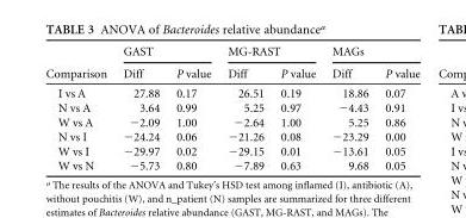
<table><thead><tr><td rowspan="2">Comparison</td><td colspan="2">GAST</td><td colspan="2">MG-RAST</td><td colspan="2">MAGs</td></tr><tr><td>Diff</td><td>P value</td><td>Diff</td><td>P value</td><td>Diff</td><td>P value</td></tr></thead><tbody><tr><td>I vs A</td><td>27.88</td><td>0.17</td><td>26.51</td><td>0.19</td><td>18.86</td><td>0.07</td></tr><tr><td>N vs A</td><td>3.64</td><td>0.99</td><td>5.25</td><td>0.97</td><td>−4.43</td><td>0.91</td></tr><tr><td>W vs A</td><td>−2.09</td><td>1.00</td><td>−2.64</td><td>1.00</td><td>5.25</td><td>0.86</td></tr><tr><td>N vs I</td><td>−24.24</td><td>0.06</td><td>−21.26</td><td>0.08</td><td>−23.29</td><td>0.00</td></tr><tr><td>W vs I</td><td>−29.97</td><td>0.02</td><td>−29.15</td><td>0.01</td><td>−13.61</td><td>0.05</td></tr><tr><td>W vs N</td><td>−5.73</td><td>0.80</td><td>−7.89</td><td>0.63</td><td>9.68</td><td>0.05</td></tr></tbody></table>